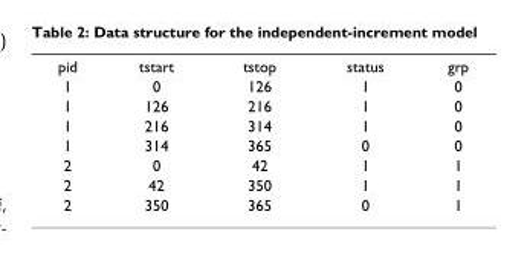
<table><tbody><tr><td>pid</td><td>tstart</td><td>tstop</td><td>status</td><td>grp</td></tr><tr><td>1</td><td>0</td><td>126</td><td>1</td><td>0</td></tr><tr><td>1</td><td>126</td><td>216</td><td>1</td><td>0</td></tr><tr><td>1</td><td>216</td><td>314</td><td>1</td><td>0</td></tr><tr><td>1</td><td>314</td><td>365</td><td>0</td><td>0</td></tr><tr><td>2</td><td>0</td><td>42</td><td>1</td><td>1</td></tr><tr><td>2</td><td>42</td><td>350</td><td>1</td><td>1</td></tr><tr><td>2</td><td>350</td><td>365</td><td>0</td><td>1</td></tr></tbody></table>